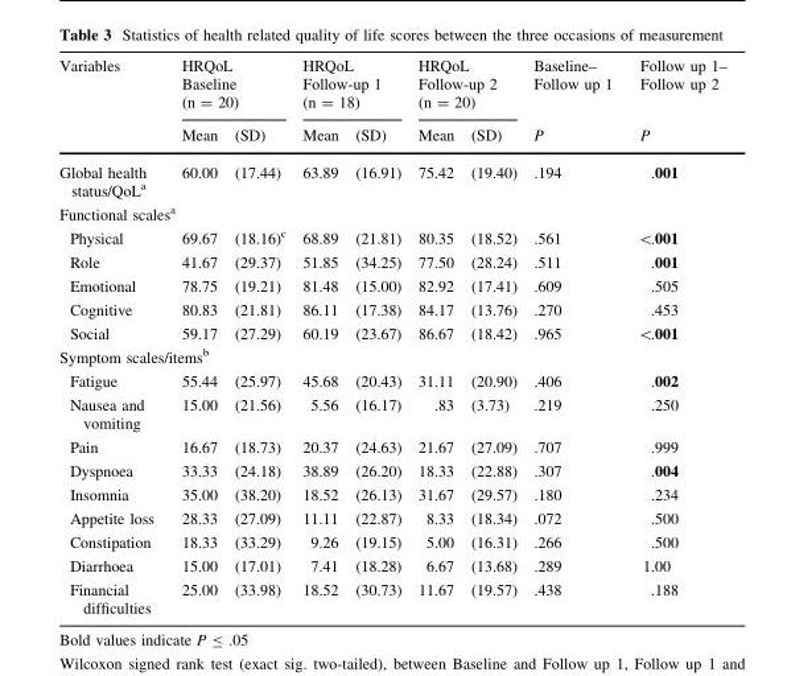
<table><thead><tr><td rowspan="2">Variables</td><td colspan="2">HRQoL Baseline (n = 20)</td><td colspan="2">HRQoL Follow-up 1 (n = 18)</td><td colspan="2">HRQoL Follow-up 2 (n = 20)</td><td rowspan="2">Baseline– Follow up 1 P</td><td rowspan="2">Follow up 1– Follow up 2 P</td></tr><tr><td>Mean</td><td>(SD)</td><td>Mean</td><td>(SD)</td><td>Mean</td><td>(SD)</td></tr></thead><tbody><tr><td>Global health status/QoL<sup>a</sup></td><td>60.00</td><td>(17.44)</td><td>63.89</td><td>(16.91)</td><td>75.42</td><td>(19.40)</td><td>.194</td><td>.001</td></tr><tr><td colspan="9">Functional scales<sup>a</sup></td></tr><tr><td>Physical</td><td>69.67</td><td>(18.16)<sup>c</sup></td><td>68.89</td><td>(21.81)</td><td>80.35</td><td>(18.52)</td><td>.561</td><td>&lt;.001</td></tr><tr><td>Role</td><td>41.67</td><td>(29.37)</td><td>51.85</td><td>(34.25)</td><td>77.50</td><td>(28.24)</td><td>.511</td><td>.001</td></tr><tr><td>Emotional</td><td>78.75</td><td>(19.21)</td><td>81.48</td><td>(15.00)</td><td>82.92</td><td>(17.41)</td><td>.609</td><td>.505</td></tr><tr><td>Cognitive</td><td>80.83</td><td>(21.81)</td><td>86.11</td><td>(17.38)</td><td>84.17</td><td>(13.76)</td><td>.270</td><td>.453</td></tr><tr><td>Social</td><td>59.17</td><td>(27.29)</td><td>60.19</td><td>(23.67)</td><td>86.67</td><td>(18.42)</td><td>.965</td><td>&lt;.001</td></tr><tr><td colspan="9">Symptom scales/items<sup>b</sup></td></tr><tr><td>Fatigue</td><td>55.44</td><td>(25.97)</td><td>45.68</td><td>(20.43)</td><td>31.11</td><td>(20.90)</td><td>.406</td><td>.002</td></tr><tr><td>Nausea and vomiting</td><td>15.00</td><td>(21.56)</td><td>5.56</td><td>(16.17)</td><td>.83</td><td>(3.73)</td><td>.219</td><td>.250</td></tr><tr><td>Pain</td><td>16.67</td><td>(18.73)</td><td>20.37</td><td>(24.63)</td><td>21.67</td><td>(27.09)</td><td>.707</td><td>.999</td></tr><tr><td>Dyspnoea</td><td>33.33</td><td>(24.18)</td><td>38.89</td><td>(26.20)</td><td>18.33</td><td>(22.88)</td><td>.307</td><td>.004</td></tr><tr><td>Insomnia</td><td>35.00</td><td>(38.20)</td><td>18.52</td><td>(26.13)</td><td>31.67</td><td>(29.57)</td><td>.180</td><td>.234</td></tr><tr><td>Appetite loss</td><td>28.33</td><td>(27.09)</td><td>11.11</td><td>(22.87)</td><td>8.33</td><td>(18.34)</td><td>.072</td><td>.500</td></tr><tr><td>Constipation</td><td>18.33</td><td>(33.29)</td><td>9.26</td><td>(19.15)</td><td>5.00</td><td>(16.31)</td><td>.266</td><td>.500</td></tr><tr><td>Diarrhoea</td><td>15.00</td><td>(17.01)</td><td>7.41</td><td>(18.28)</td><td>6.67</td><td>(13.68)</td><td>.289</td><td>1.00</td></tr><tr><td>Financial difficulties</td><td>25.00</td><td>(33.98)</td><td>18.52</td><td>(30.73)</td><td>11.67</td><td>(19.57)</td><td>.438</td><td>.188</td></tr></tbody></table>